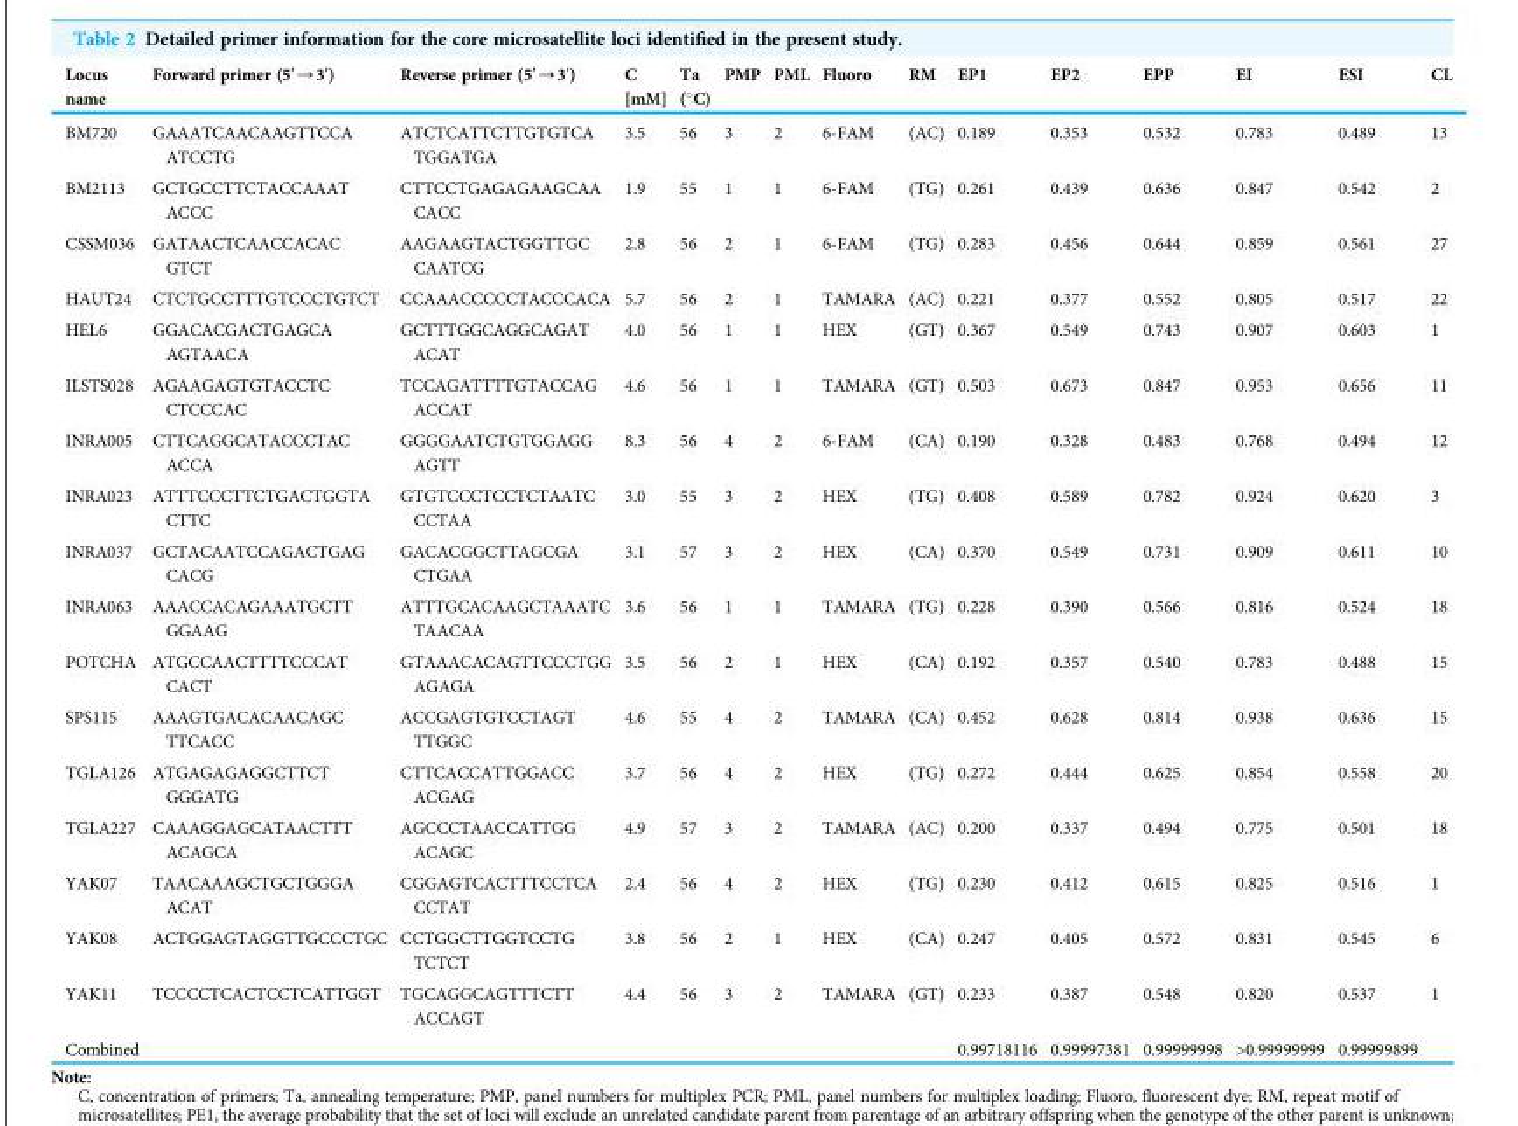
<table><thead><tr><td>Locus name</td><td>Forward primer (5′→3′)</td><td>Reverse primer (5′→3′)</td><td>C [mM]</td><td>Ta (°C)</td><td>PMP</td><td>PML</td><td>Fluoro</td><td>RM</td><td>EP1</td><td>EP2</td><td>EPP</td><td>EI</td><td>ESI</td><td>CL</td></tr></thead><tbody><tr><td>BM720</td><td>GAAATCAACAAGTTCCA ATCCTG</td><td>ATCTCATTCTTGTGTCA TGGATGA</td><td>3.5</td><td>56</td><td>3</td><td>2</td><td>6-FAM</td><td>(AC)</td><td>0.189</td><td>0.353</td><td>0.532</td><td>0.783</td><td>0.489</td><td>13</td></tr><tr><td>BM2113</td><td>GCTGCCTTCTACCAAAT ACCC</td><td>CTTCCTGAGAGAAGCAA CACC</td><td>1.9</td><td>55</td><td>1</td><td>1</td><td>6-FAM</td><td>(TG)</td><td>0.261</td><td>0.439</td><td>0.636</td><td>0.847</td><td>0.542</td><td>2</td></tr><tr><td>CSSM036</td><td>GATAACTCAACCACAC GTCT</td><td>AAGAAGTACTGGTTGC CAATCG</td><td>2.8</td><td>56</td><td>2</td><td>1</td><td>6-FAM</td><td>(TG)</td><td>0.283</td><td>0.456</td><td>0.644</td><td>0.859</td><td>0.561</td><td>27</td></tr><tr><td>HAUT24</td><td>CTCTGCCTTTGTCCCTGTCT</td><td>CCAAACCCCCTACCCACA</td><td>5.7</td><td>56</td><td>2</td><td>1</td><td>TAMARA</td><td>(AC)</td><td>0.221</td><td>0.377</td><td>0.552</td><td>0.805</td><td>0.517</td><td>22</td></tr><tr><td>HEL6</td><td>GGACACGACTGAGCA AGTAACA</td><td>GCTTTGGCAGGCAGAT ACAT</td><td>4.0</td><td>56</td><td>1</td><td>1</td><td>HEX</td><td>(GT)</td><td>0.367</td><td>0.549</td><td>0.743</td><td>0.907</td><td>0.603</td><td>1</td></tr><tr><td>ILSTS028</td><td>AGAAGAGTGTACCTC CTCCCAC</td><td>TCCAGATTTTGTACCAG ACCAT</td><td>4.6</td><td>56</td><td>1</td><td>1</td><td>TAMARA</td><td>(GT)</td><td>0.503</td><td>0.673</td><td>0.847</td><td>0.953</td><td>0.656</td><td>11</td></tr><tr><td>INRA005</td><td>CTTCAGGCATACCCTAC ACCA</td><td>GGGGAATCTGTGGAGG AGTT</td><td>8.3</td><td>56</td><td>4</td><td>2</td><td>6-FAM</td><td>(CA)</td><td>0.190</td><td>0.328</td><td>0.483</td><td>0.768</td><td>0.494</td><td>12</td></tr><tr><td>INRA023</td><td>ATTTCCCTTCTGACTGGTA CTTC</td><td>GTGTCCCTCCTCTAATC CCTAA</td><td>3.0</td><td>55</td><td>3</td><td>2</td><td>HEX</td><td>(TG)</td><td>0.408</td><td>0.589</td><td>0.782</td><td>0.924</td><td>0.620</td><td>3</td></tr><tr><td>INRA037</td><td>GCTACAATCCAGACTGAG CACG</td><td>GACACGGCTTAGCGA CTGAA</td><td>3.1</td><td>57</td><td>3</td><td>2</td><td>HEX</td><td>(CA)</td><td>0.370</td><td>0.549</td><td>0.731</td><td>0.909</td><td>0.611</td><td>10</td></tr><tr><td>INRA063</td><td>AAACCACAGAAATGCTT GGAAG</td><td>ATTTGCACAAGCTAAATC TAACAA</td><td>3.6</td><td>56</td><td>1</td><td>1</td><td>TAMARA</td><td>(TG)</td><td>0.228</td><td>0.390</td><td>0.566</td><td>0.816</td><td>0.524</td><td>18</td></tr><tr><td>POTCHA</td><td>ATGCCAACTTTTCCCAT CACT</td><td>GTAAACACAGTTCCCTGG AGAGA</td><td>3.5</td><td>56</td><td>2</td><td>1</td><td>HEX</td><td>(CA)</td><td>0.192</td><td>0.357</td><td>0.540</td><td>0.783</td><td>0.488</td><td>15</td></tr><tr><td>SPS115</td><td>AAAGTGACACAACAGC TTCACC</td><td>ACCGAGTGTCCTAGT TTGGC</td><td>4.6</td><td>55</td><td>4</td><td>2</td><td>TAMARA</td><td>(CA)</td><td>0.452</td><td>0.628</td><td>0.814</td><td>0.938</td><td>0.636</td><td>15</td></tr><tr><td>TGLA126</td><td>ATGAGAGAGGCTTCT GGGATG</td><td>CTTCACCATTGGACC ACGAG</td><td>3.7</td><td>56</td><td>4</td><td>2</td><td>HEX</td><td>(TG)</td><td>0.272</td><td>0.444</td><td>0.625</td><td>0.854</td><td>0.558</td><td>20</td></tr><tr><td>TGLA227</td><td>CAAAGGAGCATAACTTT ACAGCA</td><td>AGCCCTAACCATTGG ACAGC</td><td>4.9</td><td>57</td><td>3</td><td>2</td><td>TAMARA</td><td>(AC)</td><td>0.200</td><td>0.337</td><td>0.494</td><td>0.775</td><td>0.501</td><td>18</td></tr><tr><td>YAK07</td><td>TAACAAAGCTGCTGGGA ACAT</td><td>CGGAGTCACTTTCCTCA CCTAT</td><td>2.4</td><td>56</td><td>4</td><td>2</td><td>HEX</td><td>(TG)</td><td>0.230</td><td>0.412</td><td>0.615</td><td>0.825</td><td>0.516</td><td>1</td></tr><tr><td>YAK08</td><td>ACTGGAGTAGGTTGCCCTGC</td><td>CCTGGCTTGGTCCTG TCTCT</td><td>3.8</td><td>56</td><td>2</td><td>1</td><td>HEX</td><td>(CA)</td><td>0.247</td><td>0.405</td><td>0.572</td><td>0.831</td><td>0.545</td><td>6</td></tr><tr><td>YAK11</td><td>TCCCCTCACTCCTCATTGGT</td><td>TGCAGGCAGTTTCTT ACCAGT</td><td>4.4</td><td>56</td><td>3</td><td>2</td><td>TAMARA</td><td>(GT)</td><td>0.233</td><td>0.387</td><td>0.548</td><td>0.820</td><td>0.537</td><td>1</td></tr><tr><td>Combined</td><td></td><td></td><td></td><td></td><td></td><td></td><td></td><td></td><td>0.99718116</td><td>0.99997381</td><td>0.99999998</td><td>&gt;0.99999999</td><td>0.99999899</td><td></td></tr></tbody></table>